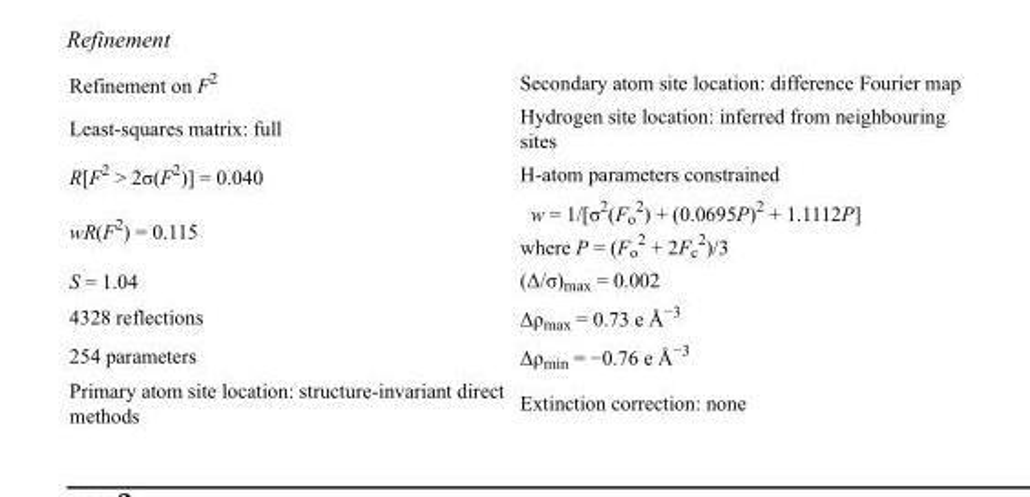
<table><tbody><tr><td>Refinement on F<sup>2</sup></td><td>Secondary atom site location: difference Fourier map</td></tr><tr><td>Least-squares matrix: full</td><td>Hydrogen site location: inferred from neighbouring sites</td></tr><tr><td>R[F<sup>2</sup> &gt; 2σ(F<sup>2</sup>)] = 0.040</td><td>H-atom parameters constrained</td></tr><tr><td>wR(F<sup>2</sup>) = 0.115</td><td>w = 1/[σ<sup>2</sup>(F<sub>o</sub> <sup>2</sup>) + (0.0695P)<sup>2</sup> + 1.1112P] where P = (F<sub>o</sub> <sup>2</sup> + 2F<sub>c</sub> <sup>2</sup>)/3</td></tr><tr><td>S = 1.04</td><td>(Δ/σ)<sub>max</sub> = 0.002</td></tr><tr><td>4328 reflections</td><td>Δρ<sub>max</sub> = 0.73 e Å<sup>−3</sup></td></tr><tr><td>254 parameters</td><td>Δρ<sub>min</sub> = −0.76 e Å<sup>−3</sup></td></tr><tr><td>Primary atom site location: structure-invariant direct methods</td><td>Extinction correction: none</td></tr></tbody></table>